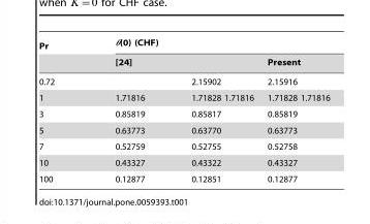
<table><thead><tr><td rowspan="3">Pr 0.72</td><td colspan="3">θ(0) (CHF)</td></tr><tr><td colspan="2">[24]</td><td rowspan="2">Present 2.15916</td></tr><tr><td></td><td>2.15902</td></tr></thead><tbody><tr><td>1</td><td>1.71816</td><td>1.71828 1.71816</td><td>1.71828 1.71816</td></tr><tr><td>3</td><td>0.85819</td><td>0.85817</td><td>0.85819</td></tr><tr><td>5</td><td>0.63773</td><td>0.63770</td><td>0.63773</td></tr><tr><td>7</td><td>0.52759</td><td>0.52755</td><td>0.52758</td></tr><tr><td>10</td><td>0.43327</td><td>0.43322</td><td>0.43327</td></tr><tr><td>100</td><td>0.12877</td><td>0.12851</td><td>0.12877</td></tr></tbody></table>